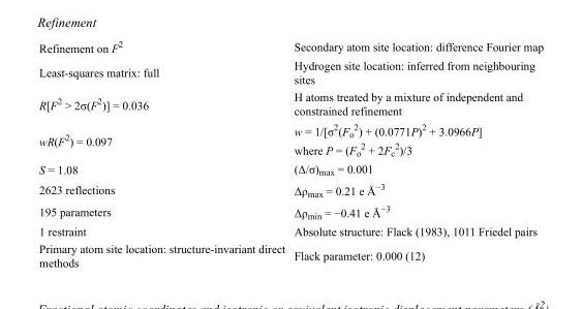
<table><tbody><tr><td>Refinement on F<sup>2</sup></td><td>Secondary atom site location: difference Fourier map</td></tr><tr><td>Least-squares matrix: full</td><td>Hydrogen site location: inferred from neighbouring sites</td></tr><tr><td>R[F<sup>2</sup> &gt; 2σ(F<sup>2</sup>)] = 0.036</td><td>H atoms treated by a mixture of independent and constrained refinement</td></tr><tr><td>wR(F<sup>2</sup>) = 0.097</td><td>w = 1/[σ<sup>2</sup>(F<sub>o</sub> <sup>2</sup>) + (0.0771P)<sup>2</sup> + 3.0966P] where P = (F<sub>o</sub> <sup>2</sup> + 2F<sub>c</sub> <sup>2</sup>)/3</td></tr><tr><td>S = 1.08</td><td>(Δ/σ)<sub>max</sub> = 0.001</td></tr><tr><td>2623 reflections</td><td>Δρ<sub>max</sub> = 0.21 e Å<sup>−3</sup></td></tr><tr><td>195 parameters</td><td>Δρ<sub>min</sub> = −0.41 e Å<sup>−3</sup></td></tr><tr><td>1 restraint</td><td>Absolute structure: Flack (1983), 1011 Friedel pairs</td></tr><tr><td>Primary atom site location: structure-invariant direct methods</td><td>Flack parameter: 0.000 (12)</td></tr></tbody></table>